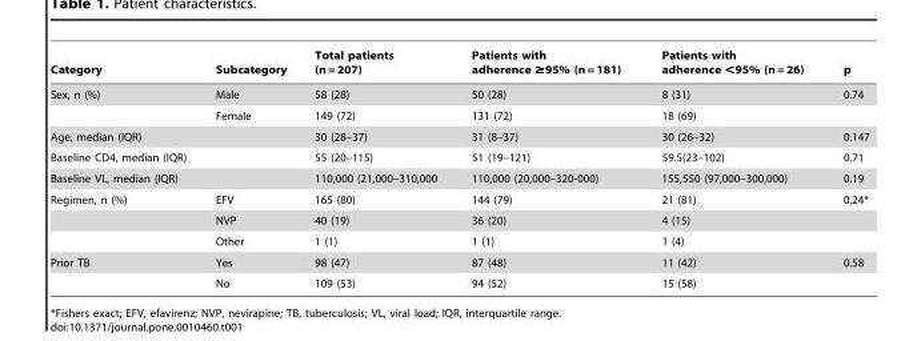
<table><thead><tr><td>Category</td><td>Subcategory</td><td>Total patients (n = 207)</td><td>Patients with adherence ≥95% (n = 181)</td><td>Patients with adherence &lt;95% (n = 26)</td><td>p</td></tr></thead><tbody><tr><td rowspan="2">Sex, n (%)</td><td>Male</td><td>58 (28)</td><td>50 (28)</td><td>8 (31)</td><td>0.74</td></tr><tr><td>Female</td><td>149 (72)</td><td>131 (72)</td><td>18 (69)</td><td></td></tr><tr><td>Age, median (IQR)</td><td></td><td>30 (28–37)</td><td>31 (8–37)</td><td>30 (26–32)</td><td>0.147</td></tr><tr><td>Baseline CD4, median (IQR)</td><td></td><td>55 (20–115)</td><td>51 (19–121)</td><td>59.5(23–102)</td><td>0.71</td></tr><tr><td>Baseline VL, median (IQR)</td><td></td><td>110,000 (21,000–310,000</td><td>110,000 (20,000–320-000)</td><td>155,550 (97,000–300,000)</td><td>0.19</td></tr><tr><td rowspan="3">Regimen, n (%)</td><td>EFV</td><td>165 (80)</td><td>144 (79)</td><td>21 (81)</td><td>0.24*</td></tr><tr><td>NVP</td><td>40 (19)</td><td>36 (20)</td><td>4 (15)</td><td></td></tr><tr><td>Other</td><td>1 (1)</td><td>1 (1)</td><td>1 (4)</td><td></td></tr><tr><td rowspan="2">Prior TB</td><td>Yes</td><td>98 (47)</td><td>87 (48)</td><td>11 (42)</td><td>0.58</td></tr><tr><td>No</td><td>109 (53)</td><td>94 (52)</td><td>15 (58)</td><td></td></tr></tbody></table>